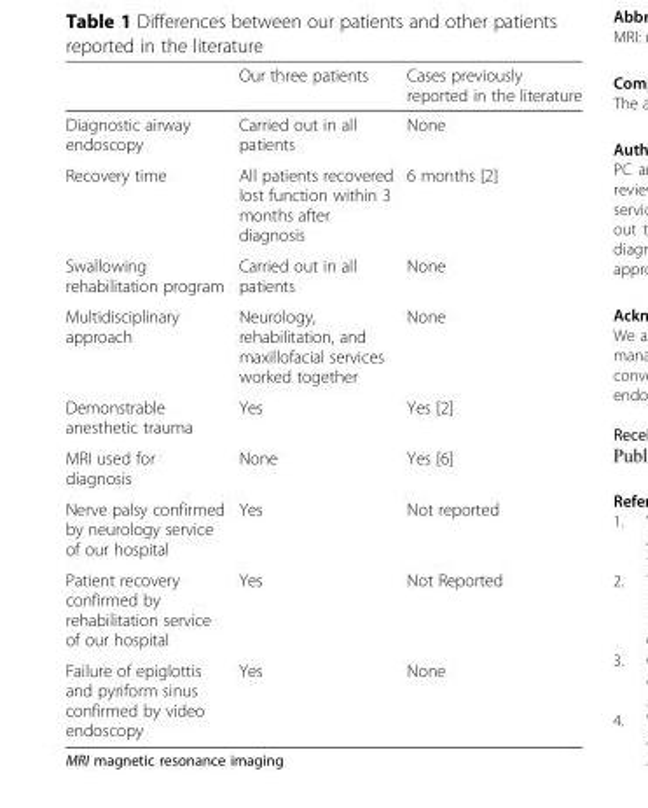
<table><thead><tr><td></td><td>Our three patients</td><td>Cases previously reported in the literature</td></tr></thead><tbody><tr><td>Diagnostic airway endoscopy</td><td>Carried out in all patients</td><td>None</td></tr><tr><td>Recovery time</td><td>All patients recovered lost function within 3 months after diagnosis</td><td>6 months [2]</td></tr><tr><td>Swallowing rehabilitation program</td><td>Carried out in all patients</td><td>None</td></tr><tr><td>Multidisciplinary approach</td><td>Neurology, rehabilitation, and maxillofacial services worked together</td><td>None</td></tr><tr><td>Demonstrable anesthetic trauma</td><td>Yes</td><td>Yes [2]</td></tr><tr><td>MRI used for diagnosis</td><td>None</td><td>Yes [6]</td></tr><tr><td>Nerve palsy confirmed by neurology service of our hospital</td><td>Yes</td><td>Not reported</td></tr><tr><td>Patient recovery confirmed by rehabilitation service of our hospital</td><td>Yes</td><td>Not Reported</td></tr><tr><td>Failure of epiglottis and pyriform sinus confirmed by video endoscopy</td><td>Yes</td><td>None</td></tr></tbody></table>